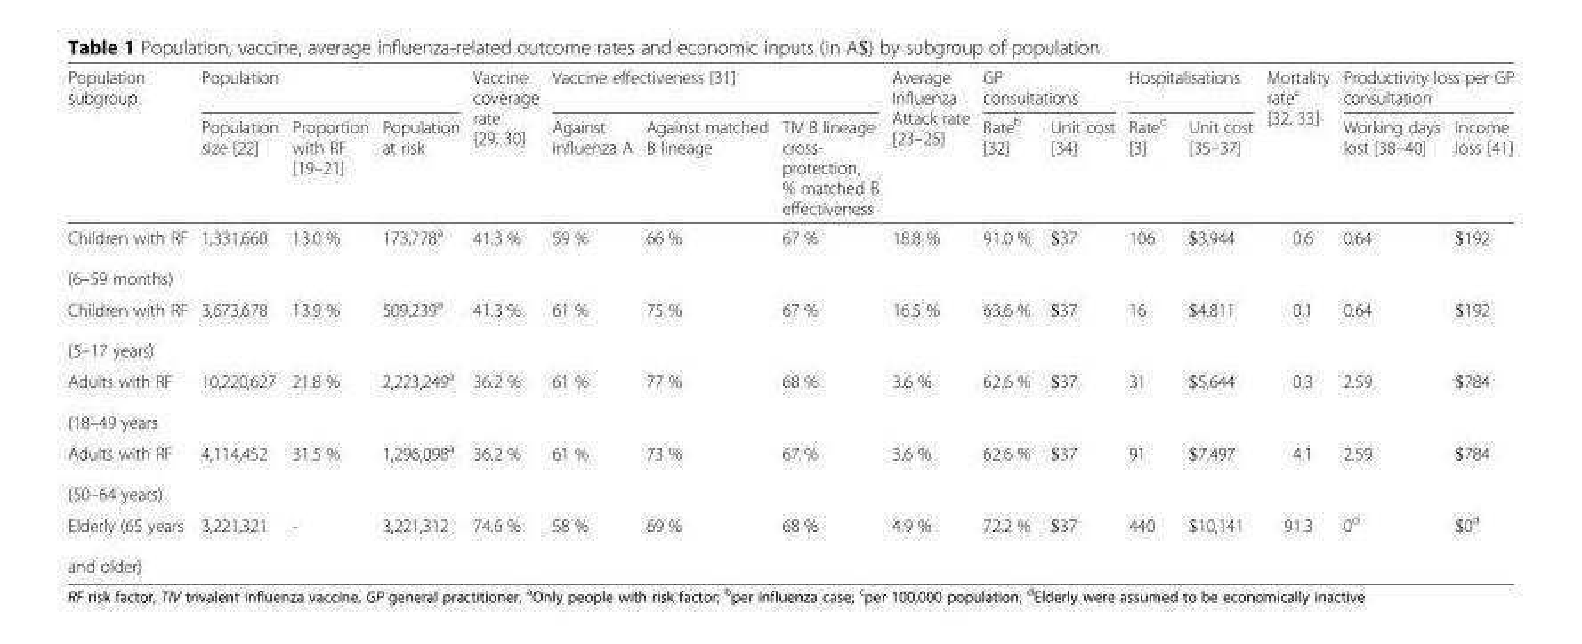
<table><thead><tr><td rowspan="2">Population subgroup</td><td colspan="3">Population</td><td rowspan="2">Vaccine coverage rate [29, 30]</td><td colspan="3">Vaccine effectiveness [31]</td><td rowspan="2">Average Influenza Attack rate [23–25]</td><td colspan="2">GP consultations</td><td colspan="2">Hospitalisations</td><td rowspan="2">Mortality rate<sup>c</sup> [32, 33]</td><td colspan="2">Productivity loss per GP consultation</td></tr><tr><td>Population size [22]</td><td>Proportion with RF [19–21]</td><td>Population at risk</td><td>Against influenza A</td><td>Against matched B lineage</td><td>TIV B lineage cross- protection, % matched B effectiveness</td><td>Rate<sup>b</sup> [32]</td><td>Unit cost [34]</td><td>Rate<sup>c</sup> [3]</td><td>Unit cost [35–37]</td><td>Working days lost [38–40]</td><td>Income loss [41]</td></tr></thead><tbody><tr><td>Children with RF (6–59 months)</td><td>1,331,660</td><td>13.0 %</td><td>173,778<sup>a</sup></td><td>41.3 %</td><td>59 %</td><td>66 %</td><td>67 %</td><td>18.8 %</td><td>91.0 %</td><td>$37</td><td>106</td><td>$3,944</td><td>0.6</td><td>0.64</td><td>$192</td></tr><tr><td>Children with RF (5–17 years)</td><td>3,673,678</td><td>13.9 %</td><td>509,239<sup>a</sup></td><td>41.3 %</td><td>61 %</td><td>75 %</td><td>67 %</td><td>16.5 %</td><td>63.6 %</td><td>$37</td><td>16</td><td>$4,811</td><td>0.1</td><td>0.64</td><td>$192</td></tr><tr><td>Adults with RF (18–49 years</td><td>10,220,627</td><td>21.8 %</td><td>2,223,249<sup>a</sup></td><td>36.2 %</td><td>61 %</td><td>77 %</td><td>68 %</td><td>3.6 %</td><td>62.6 %</td><td>$37</td><td>31</td><td>$5,644</td><td>0.3</td><td>2.59</td><td>$784</td></tr><tr><td>Adults with RF (50–64 years)</td><td>4,114,452</td><td>31.5 %</td><td>1,296,098<sup>a</sup></td><td>36.2 %</td><td>61 %</td><td>73 %</td><td>67 %</td><td>3.6 %</td><td>62.6 %</td><td>$37</td><td>91</td><td>$7,497</td><td>4.1</td><td>2.59</td><td>$784</td></tr><tr><td>Elderly (65 years and older)</td><td>3,221,321</td><td>-</td><td>3,221,312</td><td>74.6 %</td><td>58 %</td><td>69 %</td><td>68 %</td><td>4.9 %</td><td>72.2 %</td><td>$37</td><td>440</td><td>$10,141</td><td>91.3</td><td>0<sup>d</sup></td><td>$0<sup>d</sup></td></tr></tbody></table>